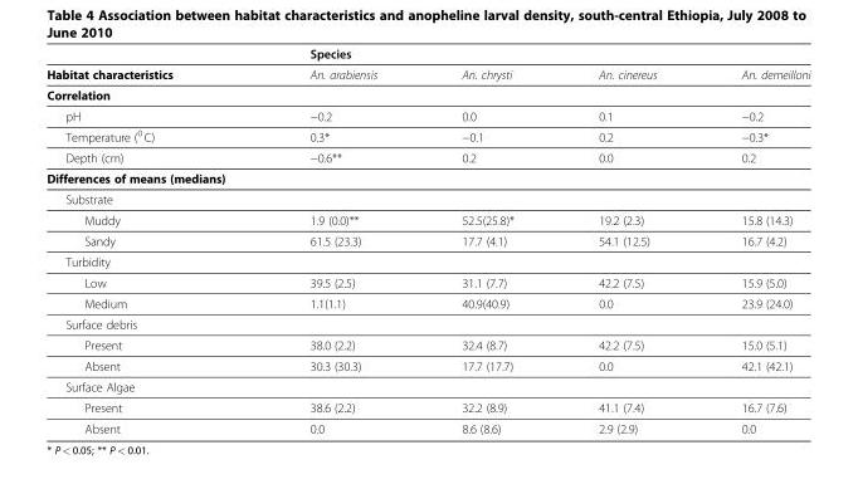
<table><thead><tr><td rowspan="2">Habitat characteristics</td><td colspan="4">Species</td></tr><tr><td>An. arabiensis</td><td>An. chrysti</td><td>An. cinereus</td><td>An. demeilloni</td></tr></thead><tbody><tr><td colspan="5">Correlation</td></tr><tr><td>pH</td><td>−0.2</td><td>0.0</td><td>0.1</td><td>−0.2</td></tr><tr><td>Temperature (<sup>0</sup> C)</td><td>0.3*</td><td>−0.1</td><td>0.2</td><td>−0.3*</td></tr><tr><td>Depth (cm)</td><td>−0.6**</td><td>0.2</td><td>0.0</td><td>0.2</td></tr><tr><td colspan="5">Differences of means (medians)</td></tr><tr><td colspan="5">Substrate</td></tr><tr><td>Muddy</td><td>1.9 (0.0)**</td><td>52.5(25.8)*</td><td>19.2 (2.3)</td><td>15.8 (14.3)</td></tr><tr><td>Sandy</td><td>61.5 (23.3)</td><td>17.7 (4.1)</td><td>54.1 (12.5)</td><td>16.7 (4.2)</td></tr><tr><td colspan="5">Turbidity</td></tr><tr><td>Low</td><td>39.5 (2.5)</td><td>31.1 (7.7)</td><td>42.2 (7.5)</td><td>15.9 (5.0)</td></tr><tr><td>Medium</td><td>1.1(1.1)</td><td>40.9(40.9)</td><td>0.0</td><td>23.9 (24.0)</td></tr><tr><td colspan="5">Surface debris</td></tr><tr><td>Present</td><td>38.0 (2.2)</td><td>32.4 (8.7)</td><td>42.2 (7.5)</td><td>15.0 (5.1)</td></tr><tr><td>Absent</td><td>30.3 (30.3)</td><td>17.7 (17.7)</td><td>0.0</td><td>42.1 (42.1)</td></tr><tr><td colspan="5">Surface Algae</td></tr><tr><td>Present</td><td>38.6 (2.2)</td><td>32.2 (8.9)</td><td>41.1 (7.4)</td><td>16.7 (7.6)</td></tr><tr><td>Absent</td><td>0.0</td><td>8.6 (8.6)</td><td>2.9 (2.9)</td><td>0.0</td></tr></tbody></table>